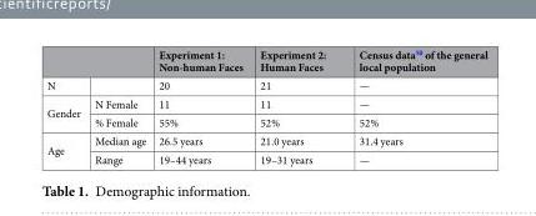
<table><thead><tr><td></td><td></td><td>Experiment 1: Non-human Faces</td><td>Experiment 2: Human Faces</td><td>Census data<sup>50</sup> of the general local population</td></tr></thead><tbody><tr><td>N</td><td></td><td>20</td><td>21</td><td>—</td></tr><tr><td rowspan="2">Gender</td><td>N Female</td><td>11</td><td>11</td><td>—</td></tr><tr><td>% Female</td><td>55%</td><td>52%</td><td>52%</td></tr><tr><td rowspan="2">Age</td><td>Median age</td><td>26.5 years</td><td>21.0 years</td><td>31.4 years</td></tr><tr><td>Range</td><td>19–44 years</td><td>19–31 years</td><td>—</td></tr></tbody></table>